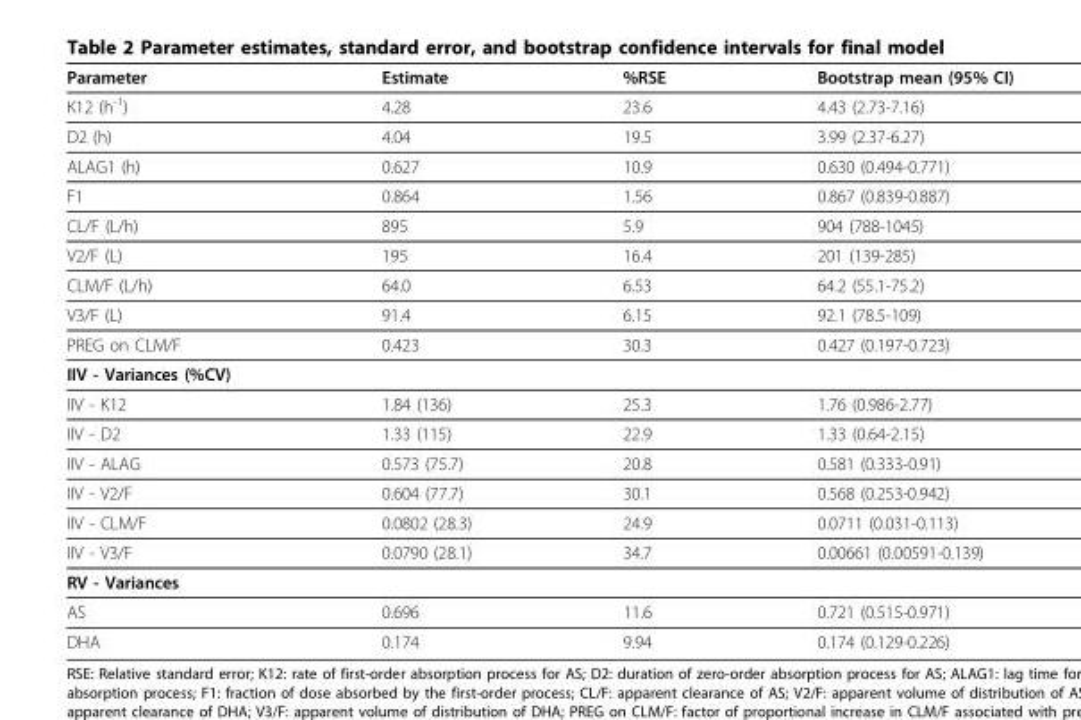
<table><thead><tr><td>Parameter</td><td>Estimate</td><td>%RSE</td><td>Bootstrap mean (95% CI)</td></tr></thead><tbody><tr><td>K12 (h<sup>-1</sup>)</td><td>4.28</td><td>23.6</td><td>4.43 (2.73-7.16)</td></tr><tr><td>D2 (h)</td><td>4.04</td><td>19.5</td><td>3.99 (2.37-6.27)</td></tr><tr><td>ALAG1 (h)</td><td>0.627</td><td>10.9</td><td>0.630 (0.494-0.771)</td></tr><tr><td>F1</td><td>0.864</td><td>1.56</td><td>0.867 (0.839-0.887)</td></tr><tr><td>CL/F (L/h)</td><td>895</td><td>5.9</td><td>904 (788-1045)</td></tr><tr><td>V2/F (L)</td><td>195</td><td>16.4</td><td>201 (139-285)</td></tr><tr><td>CLM/F (L/h)</td><td>64.0</td><td>6.53</td><td>64.2 (55.1-75.2)</td></tr><tr><td>V3/F (L)</td><td>91.4</td><td>6.15</td><td>92.1 (78.5-109)</td></tr><tr><td>PREG on CLM/F</td><td>0.423</td><td>30.3</td><td>0.427 (0.197-0.723)</td></tr><tr><td colspan="4">IIV - Variances (%CV)</td></tr><tr><td>IIV - K12</td><td>1.84 (136)</td><td>25.3</td><td>1.76 (0.986-2.77)</td></tr><tr><td>IIV - D2</td><td>1.33 (115)</td><td>22.9</td><td>1.33 (0.64-2.15)</td></tr><tr><td>IIV - ALAG</td><td>0.573 (75.7)</td><td>20.8</td><td>0.581 (0.333-0.91)</td></tr><tr><td>IIV - V2/F</td><td>0.604 (77.7)</td><td>30.1</td><td>0.568 (0.253-0.942)</td></tr><tr><td>IIV - CLM/F</td><td>0.0802 (28.3)</td><td>24.9</td><td>0.0711 (0.031-0.113)</td></tr><tr><td>IIV - V3/F</td><td>0.0790 (28.1)</td><td>34.7</td><td>0.00661 (0.00591-0.139)</td></tr><tr><td colspan="4">RV - Variances</td></tr><tr><td>AS</td><td>0.696</td><td>11.6</td><td>0.721 (0.515-0.971)</td></tr><tr><td>DHA</td><td>0.174</td><td>9.94</td><td>0.174 (0.129-0.226)</td></tr></tbody></table>